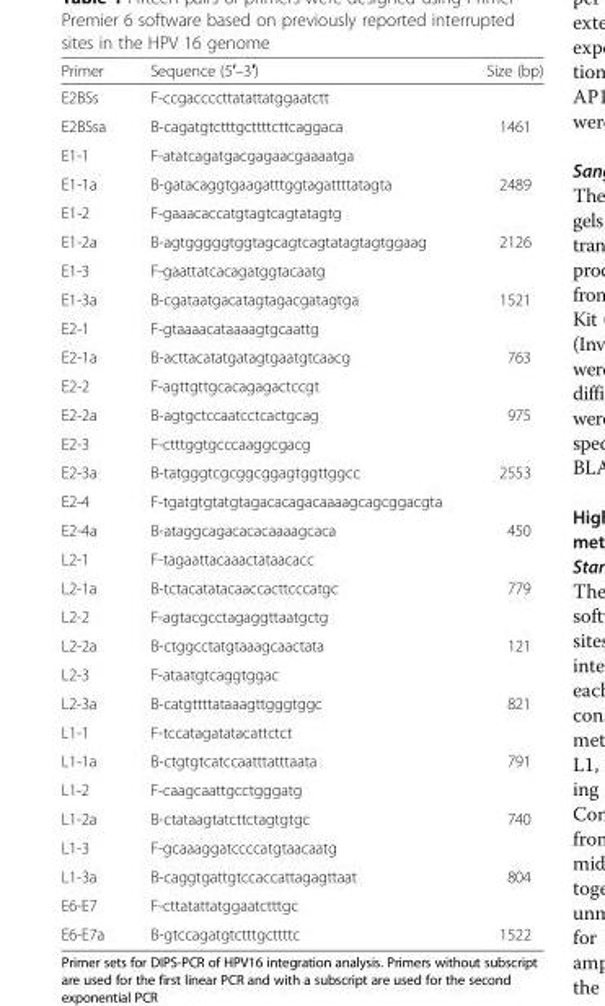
<table><thead><tr><td>Primer</td><td>Sequence (5′–3′)</td><td>Size (bp)</td></tr></thead><tbody><tr><td>E2BSs</td><td>F-ccgaccccttatattatggaatctt</td><td></td></tr><tr><td>E2BSsa</td><td>B-cagatgtctttgcttttcttcaggaca</td><td>1461</td></tr><tr><td>E1-1</td><td>F-atatcagatgacgagaacgaaaatga</td><td></td></tr><tr><td>E1-1a</td><td>B-gatacaggtgaagatttggtagattttatagta</td><td>2489</td></tr><tr><td>E1-2</td><td>F-gaaacaccatgtagtcagtatagtg</td><td></td></tr><tr><td>E1-2a</td><td>B-agtgggggtggtagcagtcagtatagtagtggaag</td><td>2126</td></tr><tr><td>E1-3</td><td>F-gaattatcacagatggtacaatg</td><td></td></tr><tr><td>E1-3a</td><td>B-cgataatgacatagtagacgatagtga</td><td>1521</td></tr><tr><td>E2-1</td><td>F-gtaaaacataaaagtgcaattg</td><td></td></tr><tr><td>E2-1a</td><td>B-acttacatatgatagtgaatgtcaacg</td><td>763</td></tr><tr><td>E2-2</td><td>F-agttgttgcacagagactccgt</td><td></td></tr><tr><td>E2-2a</td><td>B-agtgctccaatcctcactgcag</td><td>975</td></tr><tr><td>E2-3</td><td>F-ctttggtgcccaaggcgacg</td><td></td></tr><tr><td>E2-3a</td><td>B-tatgggtcgcggcggagtggttggcc</td><td>2553</td></tr><tr><td>E2-4</td><td>F-tgatgtgtatgtagacacagacaaaagcagcggacgta</td><td></td></tr><tr><td>E2-4a</td><td>B-ataggcagacacacaaaagcaca</td><td>450</td></tr><tr><td>L2-1</td><td>F-tagaattacaaactataacacc</td><td></td></tr><tr><td>L2-1a</td><td>B-tctacatatacaaccacttcccatgc</td><td>779</td></tr><tr><td>L2-2</td><td>F-agtacgcctagaggttaatgctg</td><td></td></tr><tr><td>L2-2a</td><td>B-ctggcctatgtaaagcaactata</td><td>121</td></tr><tr><td>L2-3</td><td>F-ataatgtcaggtggac</td><td></td></tr><tr><td>L2-3a</td><td>B-catgttttataaagttgggtggc</td><td>821</td></tr><tr><td>L1-1</td><td>F-tccatagatatacattctct</td><td></td></tr><tr><td>L1-1a</td><td>B-ctgtgtcatccaatttatttaata</td><td>791</td></tr><tr><td>L1-2</td><td>F-caagcaattgcctgggatg</td><td></td></tr><tr><td>L1-2a</td><td>B-ctataagtatcttctagtgtgc</td><td>740</td></tr><tr><td>L1-3</td><td>F-gcaaaggatccccatgtaacaatg</td><td></td></tr><tr><td>L1-3a</td><td>B-caggtgattgtccaccattagagttaat</td><td>804</td></tr><tr><td>E6-E7</td><td>F-cttatattatggaatctttgc</td><td></td></tr><tr><td>E6-E7a</td><td>B-gtccagatgtctttgcttttc</td><td>1522</td></tr></tbody></table>